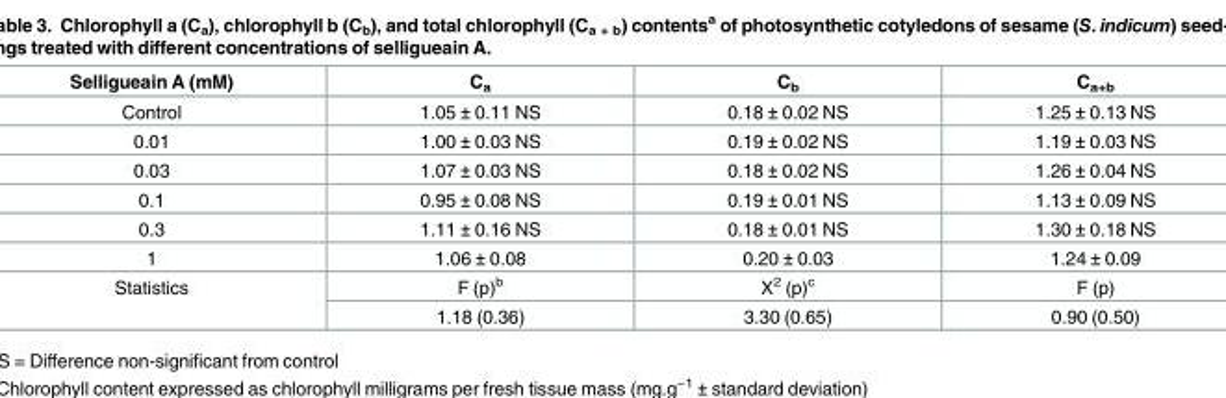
<table><thead><tr><td>Selligueain A (mM)</td><td>C<sub>a</sub></td><td>C<sub>b</sub></td><td>C<sub>a+b</sub></td></tr></thead><tbody><tr><td>Control</td><td>1.05 ± 0.11 NS</td><td>0.18 ± 0.02 NS</td><td>1.25 ± 0.13 NS</td></tr><tr><td>0.01</td><td>1.00 ± 0.03 NS</td><td>0.19 ± 0.02 NS</td><td>1.19 ± 0.03 NS</td></tr><tr><td>0.03</td><td>1.07 ± 0.03 NS</td><td>0.18 ± 0.02 NS</td><td>1.26 ± 0.04 NS</td></tr><tr><td>0.1</td><td>0.95 ± 0.08 NS</td><td>0.19 ± 0.01 NS</td><td>1.13 ± 0.09 NS</td></tr><tr><td>0.3</td><td>1.11 ± 0.16 NS</td><td>0.18 ± 0.01 NS</td><td>1.30 ± 0.18 NS</td></tr><tr><td>1</td><td>1.06 ± 0.08</td><td>0.20 ± 0.03</td><td>1.24 ± 0.09</td></tr><tr><td rowspan="2">Statistics</td><td>F (p)<sup>b</sup></td><td>X<sup>2</sup> (p)<sup>c</sup></td><td>F (p)</td></tr><tr><td>1.18 (0.36)</td><td>3.30 (0.65)</td><td>0.90 (0.50)</td></tr></tbody></table>